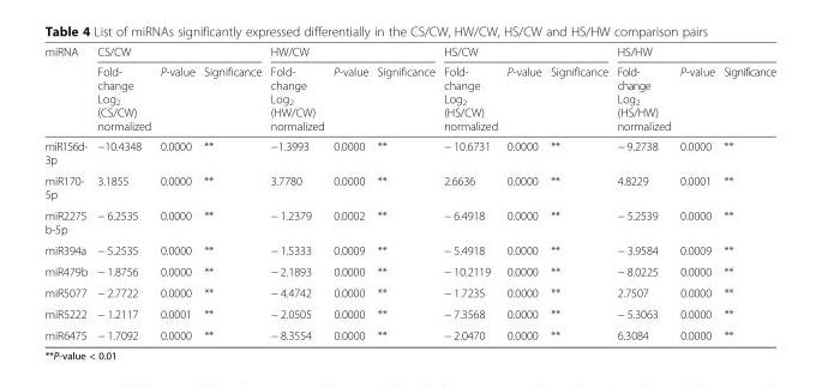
<table><thead><tr><td rowspan="2">miRNA</td><td colspan="3">CS/CW</td><td colspan="3">HW/CW</td><td colspan="3">HS/CW</td><td colspan="3">HS/HW</td></tr><tr><td>Fold- change Log<sub>2</sub> (CS/CW) normalized</td><td>P-value</td><td>Significance</td><td>Fold- change Log<sub>2</sub> (HW/CW) normalized</td><td>P-value</td><td>Significance</td><td>Fold- change Log<sub>2</sub> (HS/CW) normalized</td><td>P-value</td><td>Significance</td><td>Fold- change Log<sub>2</sub> (HS/HW) normalized</td><td>P-value</td><td>Significance</td></tr></thead><tbody><tr><td>miR156d- 3p</td><td>−10.4348</td><td>0.0000</td><td>**</td><td>−1.3993</td><td>0.0000</td><td>**</td><td>− 10.6731</td><td>0.0000</td><td>**</td><td>− 9.2738</td><td>0.0000</td><td>**</td></tr><tr><td>miR170- 5p</td><td>3.1855</td><td>0.0000</td><td>**</td><td>3.7780</td><td>0.0000</td><td>**</td><td>2.6636</td><td>0.0000</td><td>**</td><td>4.8229</td><td>0.0001</td><td>**</td></tr><tr><td>miR2275 b-5p</td><td>− 6.2535</td><td>0.0000</td><td>**</td><td>− 1.2379</td><td>0.0002</td><td>**</td><td>− 6.4918</td><td>0.0000</td><td>**</td><td>− 5.2539</td><td>0.0000</td><td>**</td></tr><tr><td>miR394a</td><td>− 5.2535</td><td>0.0000</td><td>**</td><td>− 1.5333</td><td>0.0009</td><td>**</td><td>− 5.4918</td><td>0.0000</td><td>**</td><td>− 3.9584</td><td>0.0009</td><td>**</td></tr><tr><td>miR479b</td><td>− 1.8756</td><td>0.0000</td><td>**</td><td>− 2.1893</td><td>0.0000</td><td>**</td><td>− 10.2119</td><td>0.0000</td><td>**</td><td>− 8.0225</td><td>0.0000</td><td>**</td></tr><tr><td>miR5077</td><td>− 2.7722</td><td>0.0000</td><td>**</td><td>− 4.4742</td><td>0.0000</td><td>**</td><td>− 1.7235</td><td>0.0000</td><td>**</td><td>2.7507</td><td>0.0000</td><td>**</td></tr><tr><td>miR5222</td><td>− 1.2117</td><td>0.0001</td><td>**</td><td>− 2.0505</td><td>0.0000</td><td>**</td><td>− 7.3568</td><td>0.0000</td><td>**</td><td>− 5.3063</td><td>0.0000</td><td>**</td></tr><tr><td>miR6475</td><td>− 1.7092</td><td>0.0000</td><td>**</td><td>− 8.3554</td><td>0.0000</td><td>**</td><td>− 2.0470</td><td>0.0000</td><td>**</td><td>6.3084</td><td>0.0000</td><td>**</td></tr></tbody></table>